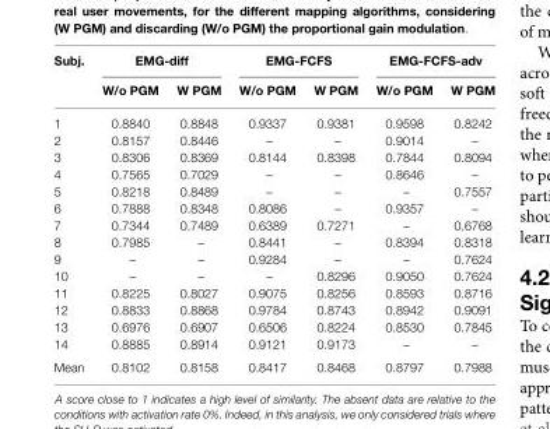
<table><thead><tr><td rowspan="2">Subj.</td><td colspan="2">EMG-diff</td><td colspan="2">EMG-FCFS</td><td colspan="2">EMG-FCFS-adv</td></tr><tr><td>W/o PGM</td><td>W PGM</td><td>W/o PGM</td><td>W PGM</td><td>W/o PGM</td><td>W PGM</td></tr></thead><tbody><tr><td>1</td><td>0.8840</td><td>0.8848</td><td>0.9337</td><td>0.9381</td><td>0.9598</td><td>0.8242</td></tr><tr><td>2</td><td>0.8157</td><td>0.8446</td><td>–</td><td>–</td><td>0.9014</td><td>–</td></tr><tr><td>3</td><td>0.8306</td><td>0.8369</td><td>0.8144</td><td>0.8398</td><td>0.7844</td><td>0.8094</td></tr><tr><td>4</td><td>0.7565</td><td>0.7029</td><td>–</td><td>–</td><td>0.8646</td><td>–</td></tr><tr><td>5</td><td>0.8218</td><td>0.8489</td><td>–</td><td>–</td><td>–</td><td>0.7557</td></tr><tr><td>6</td><td>0.7888</td><td>0.8348</td><td>0.8086</td><td>–</td><td>0.9357</td><td>–</td></tr><tr><td>7</td><td>0.7344</td><td>0.7489</td><td>0.6389</td><td>0.7271</td><td>–</td><td>0.6768</td></tr><tr><td>8</td><td>0.7985</td><td>–</td><td>0.8441</td><td>–</td><td>0.8394</td><td>0.8318</td></tr><tr><td>9</td><td>–</td><td>–</td><td>0.9284</td><td>–</td><td>–</td><td>0.7624</td></tr><tr><td>10</td><td>–</td><td>–</td><td>–</td><td>0.8296</td><td>0.9050</td><td>0.7624</td></tr><tr><td>11</td><td>0.8225</td><td>0.8027</td><td>0.9075</td><td>0.8256</td><td>0.8593</td><td>0.8716</td></tr><tr><td>12</td><td>0.8833</td><td>0.8868</td><td>0.9784</td><td>0.8743</td><td>0.8942</td><td>0.9091</td></tr><tr><td>13</td><td>0.6976</td><td>0.6907</td><td>0.6506</td><td>0.8224</td><td>0.8530</td><td>0.7845</td></tr><tr><td>14</td><td>0.8885</td><td>0.8914</td><td>0.9121</td><td>0.9173</td><td>–</td><td>–</td></tr><tr><td>Mean</td><td>0.8102</td><td>0.8158</td><td>0.8417</td><td>0.8468</td><td>0.8797</td><td>0.7988</td></tr></tbody></table>